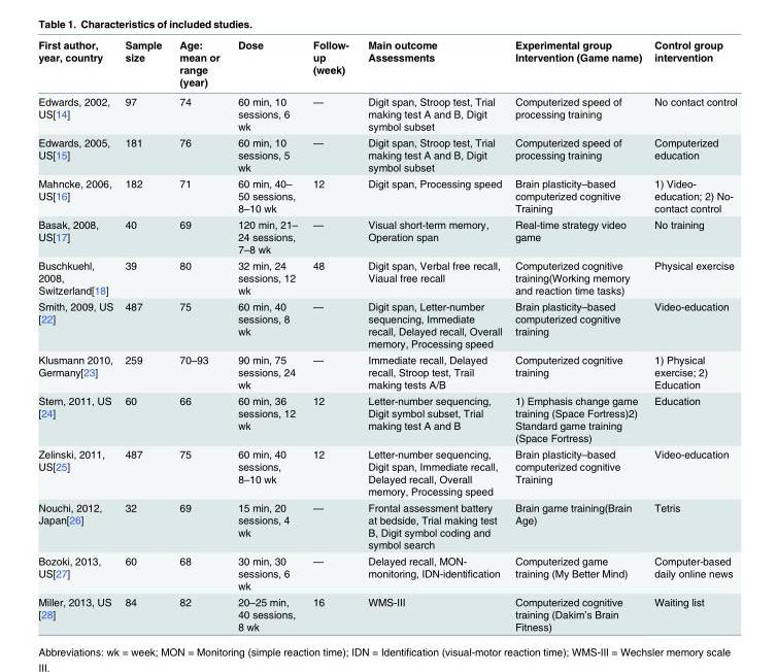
<table><thead><tr><td>First author, year, country</td><td>Sample size</td><td>Age: mean or range (year)</td><td>Dose</td><td>Follow- up (week)</td><td>Main outcome Assessments</td><td>Experimental group Intervention (Game name)</td><td>Control group intervention</td></tr></thead><tbody><tr><td>Edwards, 2002, US[14]</td><td>97</td><td>74</td><td>60 min, 10 sessions, 6 wk</td><td>—</td><td>Digit span, Stroop test, Trial making test A and B, Digit symbol subset</td><td>Computerized speed of processing training</td><td>No contact control</td></tr><tr><td>Edwards, 2005, US[15]</td><td>181</td><td>76</td><td>60 min, 10 sessions, 5 wk</td><td>—</td><td>Digit span, Stroop test, Trial making test A and B, Digit symbol subset</td><td>Computerized speed of processing training</td><td>Computerized education</td></tr><tr><td>Mahncke, 2006, US[16]</td><td>182</td><td>71</td><td>60 min, 40– 50 sessions, 8–10 wk</td><td>12</td><td>Digit span, Processing speed</td><td>Brain plasticity–based computerized cognitive Training</td><td>1) Video- education; 2) No- contact control</td></tr><tr><td>Basak, 2008, US[17]</td><td>40</td><td>69</td><td>120 min, 21– 24 sessions, 7–8 wk</td><td>—</td><td>Visual short-term memory, Operation span</td><td>Real-time strategy video game</td><td>No training</td></tr><tr><td>Buschkuehl, 2008, Switzerland[18]</td><td>39</td><td>80</td><td>32 min, 24 sessions, 12 wk</td><td>48</td><td>Digit span, Verbal free recall, Viaual free recall</td><td>Computerized cognitive training(Working memory and reaction time tasks)</td><td>Physical exercise</td></tr><tr><td>Smith, 2009, US [22]</td><td>487</td><td>75</td><td>60 min, 40 sessions, 8 wk</td><td>—</td><td>Digit span, Letter-number sequencing, Immediate recall, Delayed recall, Overall memory, Processing speed</td><td>Brain plasticity–based computerized cognitive training</td><td>Video-education</td></tr><tr><td>Klusmann 2010, Germany[23]</td><td>259</td><td>70–93</td><td>90 min, 75 sessions, 24 wk</td><td>—</td><td>Immediate recall, Delayed recall, Stroop test, Trail making tests A/B</td><td>Computerized cognitive training</td><td>1) Physical exercise; 2) Education</td></tr><tr><td>Stern, 2011, US [24]</td><td>60</td><td>66</td><td>60 min, 36 sessions, 12 wk</td><td>12</td><td>Letter-number sequencing, Digit symbol subset, Trial making test A and B</td><td>1) Emphasis change game training (Space Fortress)2) Standard game training (Space Fortress)</td><td>Education</td></tr><tr><td>Zelinski, 2011, US[25]</td><td>487</td><td>75</td><td>60 min, 40 sessions, 8–10 wk</td><td>12</td><td>Letter-number sequencing, Digit span, Immediate recall, Delayed recall, Overall memory, Processing speed</td><td>Brain plasticity–based computerized cognitive Training</td><td>Video-education</td></tr><tr><td>Nouchi, 2012, Japan[26]</td><td>32</td><td>69</td><td>15 min, 20 sessions, 4 wk</td><td>—</td><td>Frontal assessment battery at bedside, Trial making test B, Digit symbol coding and symbol search</td><td>Brain game training(Brain Age)</td><td>Tetris</td></tr><tr><td>Bozoki, 2013, US[27]</td><td>60</td><td>68</td><td>30 min, 30 sessions, 6 wk</td><td>—</td><td>Delayed recall, MON- monitoring, IDN-identification</td><td>Computerized game training (My Better Mind)</td><td>Computer-based daily online news</td></tr><tr><td>Miller, 2013, US [28]</td><td>84</td><td>82</td><td>20–25 min, 40 sessions, 8 wk</td><td>16</td><td>WMS-III</td><td>Computerized cognitive training (Dakim’s Brain Fitness)</td><td>Waiting list</td></tr></tbody></table>